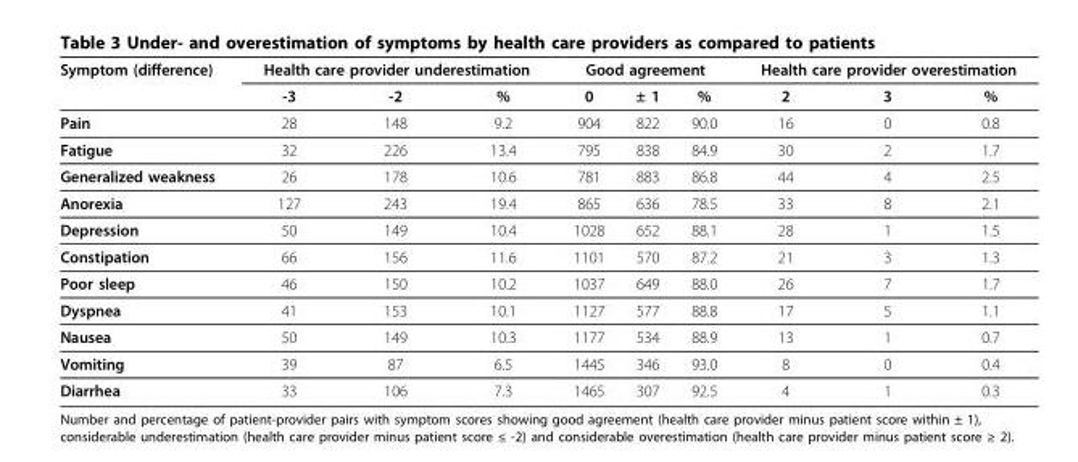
<table><thead><tr><td rowspan="2">Symptom (difference)</td><td colspan="3">Health care provider underestimation</td><td colspan="3">Good agreement</td><td colspan="3">Health care provider overestimation</td></tr><tr><td>-3</td><td>-2</td><td>%</td><td>0</td><td>± 1</td><td>%</td><td>2</td><td>3</td><td>%</td></tr></thead><tbody><tr><td>Pain</td><td>28</td><td>148</td><td>9.2</td><td>904</td><td>822</td><td>90.0</td><td>16</td><td>0</td><td>0.8</td></tr><tr><td>Fatigue</td><td>32</td><td>226</td><td>13.4</td><td>795</td><td>838</td><td>84.9</td><td>30</td><td>2</td><td>1.7</td></tr><tr><td>Generalized weakness</td><td>26</td><td>178</td><td>10.6</td><td>781</td><td>883</td><td>86.8</td><td>44</td><td>4</td><td>2.5</td></tr><tr><td>Anorexia</td><td>127</td><td>243</td><td>19.4</td><td>865</td><td>636</td><td>78.5</td><td>33</td><td>8</td><td>2.1</td></tr><tr><td>Depression</td><td>50</td><td>149</td><td>10.4</td><td>1028</td><td>652</td><td>88.1</td><td>28</td><td>1</td><td>1.5</td></tr><tr><td>Constipation</td><td>66</td><td>156</td><td>11.6</td><td>1101</td><td>570</td><td>87.2</td><td>21</td><td>3</td><td>1.3</td></tr><tr><td>Poor sleep</td><td>46</td><td>150</td><td>10.2</td><td>1037</td><td>649</td><td>88.0</td><td>26</td><td>7</td><td>1.7</td></tr><tr><td>Dyspnea</td><td>41</td><td>153</td><td>10.1</td><td>1127</td><td>577</td><td>88.8</td><td>17</td><td>5</td><td>1.1</td></tr><tr><td>Nausea</td><td>50</td><td>149</td><td>10.3</td><td>1177</td><td>534</td><td>88.9</td><td>13</td><td>1</td><td>0.7</td></tr><tr><td>Vomiting</td><td>39</td><td>87</td><td>6.5</td><td>1445</td><td>346</td><td>93.0</td><td>8</td><td>0</td><td>0.4</td></tr><tr><td>Diarrhea</td><td>33</td><td>106</td><td>7.3</td><td>1465</td><td>307</td><td>92.5</td><td>4</td><td>1</td><td>0.3</td></tr></tbody></table>